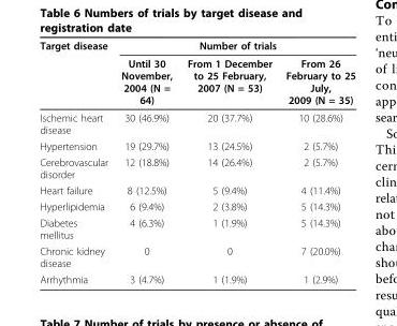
<table><thead><tr><td rowspan="2">Target disease</td><td colspan="3">Number of trials</td></tr><tr><td>Until 30 November, 2004 (N = 64)</td><td>From 1 December to 25 February, 2007 (N = 53)</td><td>From 26 February to 25 July, 2009 (N = 35)</td></tr></thead><tbody><tr><td>Ischemic heart disease</td><td>30 (46.9%)</td><td>20 (37.7%)</td><td>10 (28.6%)</td></tr><tr><td>Hypertension</td><td>19 (29.7%)</td><td>13 (24.5%)</td><td>2 (5.7%)</td></tr><tr><td>Cerebrovascular disorder</td><td>12 (18.8%)</td><td>14 (26.4%)</td><td>2 (5.7%)</td></tr><tr><td>Heart failure</td><td>8 (12.5%)</td><td>5 (9.4%)</td><td>4 (11.4%)</td></tr><tr><td>Hyperlipidemia</td><td>6 (9.4%)</td><td>2 (3.8%)</td><td>5 (14.3%)</td></tr><tr><td>Diabetes mellitus</td><td>4 (6.3%)</td><td>1 (1.9%)</td><td>5 (14.3%)</td></tr><tr><td>Chronic kidney disease</td><td>0</td><td>0</td><td>7 (20.0%)</td></tr><tr><td>Arrhythmia</td><td>3 (4.7%)</td><td>1 (1.9%)</td><td>1 (2.9%)</td></tr></tbody></table>